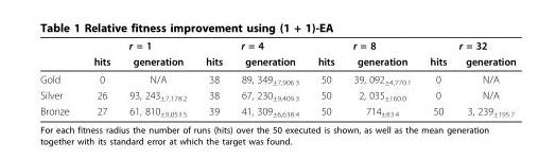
<table><thead><tr><td rowspan="2"></td><td colspan="2">r = 1</td><td colspan="2">r = 4</td><td colspan="2">r = 8</td><td colspan="2">r = 32</td></tr><tr><td>hits</td><td>generation</td><td>hits</td><td>generation</td><td>hits</td><td>generation</td><td>hits</td><td>generation</td></tr></thead><tbody><tr><td>Gold</td><td>0</td><td>N/A</td><td>38</td><td>89, 349<sub>±7,906.3</sub></td><td>50</td><td>39, 092<sub>±4,770.1</sub></td><td>0</td><td>N/A</td></tr><tr><td>Silver</td><td>26</td><td>93, 243<sub>±7,178.2</sub></td><td>38</td><td>67, 230<sub>±9,409.3</sub></td><td>50</td><td>2, 035<sub>±160.0</sub></td><td>0</td><td>N/A</td></tr><tr><td>Bronze</td><td>27</td><td>61, 810<sub>±9,053.5</sub></td><td>39</td><td>41, 309<sub>±6,638.4</sub></td><td>50</td><td>714<sub>±83.4</sub></td><td>50</td><td>3, 239<sub>±195.7</sub></td></tr></tbody></table>